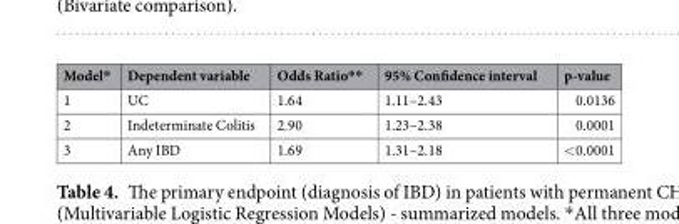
<table><thead><tr><td>Model*</td><td>Dependent variable</td><td>Odds Ratio**</td><td>95% Confidence interval</td><td>p-value</td></tr></thead><tbody><tr><td>1</td><td>UC</td><td>1.64</td><td>1.11–2.43</td><td>0.0136</td></tr><tr><td>2</td><td>Indeterminate Colitis</td><td>2.90</td><td>1.23–2.38</td><td>0.0001</td></tr><tr><td>3</td><td>Any IBD</td><td>1.69</td><td>1.31–2.18</td><td>&lt;0.0001</td></tr></tbody></table>